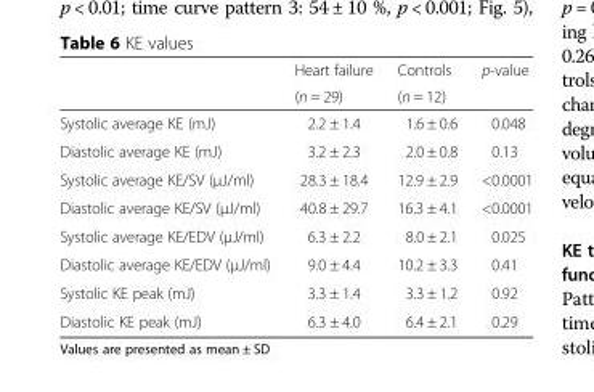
<table><thead><tr><td rowspan="2"></td><td rowspan="2">Heart failure (n = 29)</td><td rowspan="2">Controls (n = 12)</td><td rowspan="2">p-value</td></tr><tr></tr></thead><tbody><tr><td>Systolic average KE (mJ)</td><td>2.2 ± 1.4</td><td>1.6 ± 0.6</td><td>0.048</td></tr><tr><td>Diastolic average KE (mJ)</td><td>3.2 ± 2.3</td><td>2.0 ± 0.8</td><td>0.13</td></tr><tr><td>Systolic average KE/SV (μJ/ml)</td><td>28.3 ± 18.4</td><td>12.9 ± 2.9</td><td>&lt;0.0001</td></tr><tr><td>Diastolic average KE/SV (μJ/ml)</td><td>40.8 ± 29.7</td><td>16.3 ± 4.1</td><td>&lt;0.0001</td></tr><tr><td>Systolic average KE/EDV (μJ/ml)</td><td>6.3 ± 2.2</td><td>8.0 ± 2.1</td><td>0.025</td></tr><tr><td>Diastolic average KE/EDV (μJ/ml)</td><td>9.0 ± 4.4</td><td>10.2 ± 3.3</td><td>0.41</td></tr><tr><td>Systolic KE peak (mJ)</td><td>3.3 ± 1.4</td><td>3.3 ± 1.2</td><td>0.92</td></tr><tr><td>Diastolic KE peak (mJ)</td><td>6.3 ± 4.0</td><td>6.4 ± 2.1</td><td>0.29</td></tr></tbody></table>